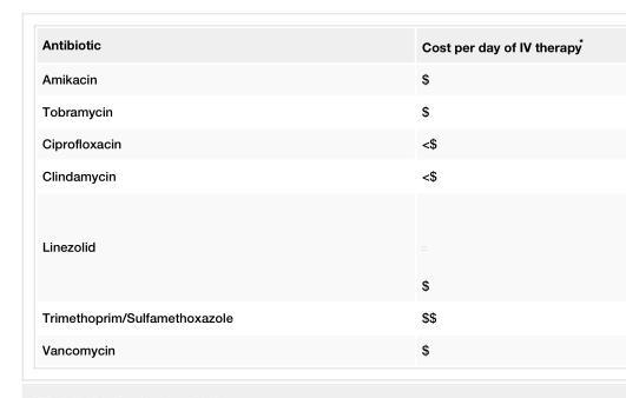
<table><tbody><tr><td>Antibiotic</td><td>Cost per day of IV therapy*</td></tr><tr><td>Amikacin</td><td>$</td></tr><tr><td>Tobramycin</td><td>$</td></tr><tr><td>Ciprofloxacin</td><td>&lt;$</td></tr><tr><td>Clindamycin</td><td>&lt;$</td></tr><tr><td>Linezolid</td><td>$</td></tr><tr><td>Trimethoprim/Sulfamethoxazole</td><td>$$</td></tr><tr><td>Vancomycin</td><td>$</td></tr></tbody></table>